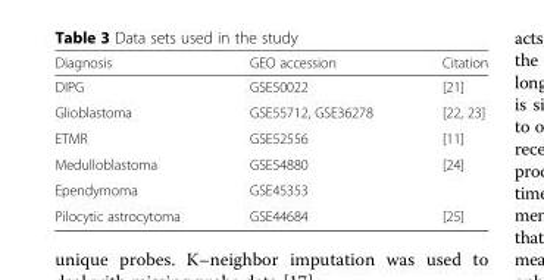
<table><thead><tr><td>Diagnosis</td><td>GEO accession</td><td>Citation</td></tr></thead><tbody><tr><td>DIPG</td><td>GSE50022</td><td>[21]</td></tr><tr><td>Glioblastoma</td><td>GSE55712, GSE36278</td><td>[22, 23]</td></tr><tr><td>ETMR</td><td>GSE52556</td><td>[11]</td></tr><tr><td>Medulloblastoma</td><td>GSE54880</td><td>[24]</td></tr><tr><td>Ependymoma</td><td>GSE45353</td><td></td></tr><tr><td>Pilocytic astrocytoma</td><td>GSE44684</td><td>[25]</td></tr></tbody></table>